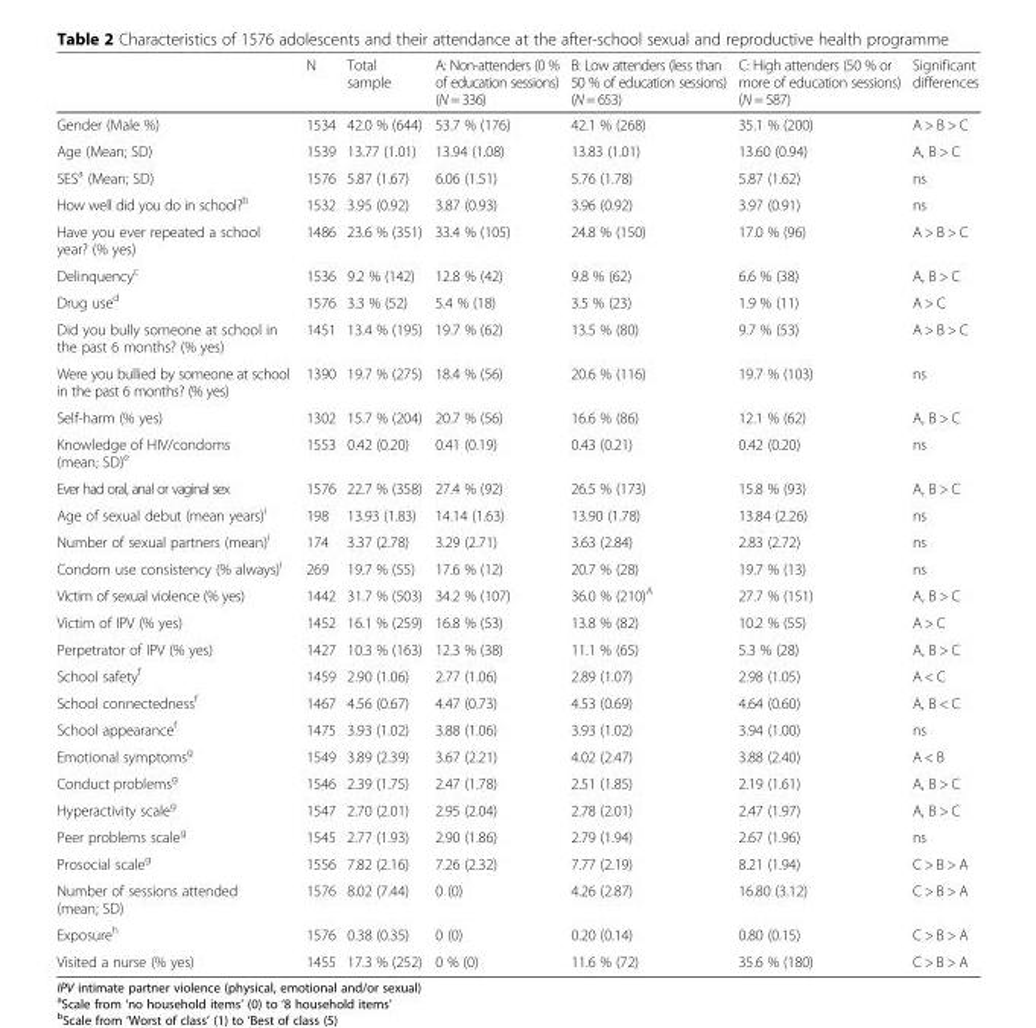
<table><thead><tr><td></td><td>N</td><td>Total sample</td><td>A: Non-attenders (0 % of education sessions) (N = 336)</td><td>B: Low attenders (less than 50 % of education sessions) (N = 653)</td><td>C: High attenders (50 % or more of education sessions) (N = 587)</td><td>Significant differences</td></tr></thead><tbody><tr><td>Gender (Male %)</td><td>1534</td><td>42.0 % (644)</td><td>53.7 % (176)</td><td>42.1 % (268)</td><td>35.1 % (200)</td><td>A &gt; B &gt; C</td></tr><tr><td>Age (Mean; SD)</td><td>1539</td><td>13.77 (1.01)</td><td>13.94 (1.08)</td><td>13.83 (1.01)</td><td>13.60 (0.94)</td><td>A, B &gt; C</td></tr><tr><td>SES<sup>a</sup> (Mean; SD)</td><td>1576</td><td>5.87 (1.67)</td><td>6.06 (1.51)</td><td>5.76 (1.78)</td><td>5.87 (1.62)</td><td>ns</td></tr><tr><td>How well did you do in school?<sup>b</sup></td><td>1532</td><td>3.95 (0.92)</td><td>3.87 (0.93)</td><td>3.96 (0.92)</td><td>3.97 (0.91)</td><td>ns</td></tr><tr><td>Have you ever repeated a school year? (% yes)</td><td>1486</td><td>23.6 % (351)</td><td>33.4 % (105)</td><td>24.8 % (150)</td><td>17.0 % (96)</td><td>A &gt; B &gt; C</td></tr><tr><td>Delinquency<sup>c</sup></td><td>1536</td><td>9.2 % (142)</td><td>12.8 % (42)</td><td>9.8 % (62)</td><td>6.6 % (38)</td><td>A, B &gt; C</td></tr><tr><td>Drug use<sup>d</sup></td><td>1576</td><td>3.3 % (52)</td><td>5.4 % (18)</td><td>3.5 % (23)</td><td>1.9 % (11)</td><td>A &gt; C</td></tr><tr><td>Did you bully someone at school in the past 6 months? (% yes)</td><td>1451</td><td>13.4 % (195)</td><td>19.7 % (62)</td><td>13.5 % (80)</td><td>9.7 % (53)</td><td>A &gt; B &gt; C</td></tr><tr><td>Were you bullied by someone at school in the past 6 months? (% yes)</td><td>1390</td><td>19.7 % (275)</td><td>18.4 % (56)</td><td>20.6 % (116)</td><td>19.7 % (103)</td><td>ns</td></tr><tr><td>Self-harm (% yes)</td><td>1302</td><td>15.7 % (204)</td><td>20.7 % (56)</td><td>16.6 % (86)</td><td>12.1 % (62)</td><td>A, B &gt; C</td></tr><tr><td>Knowledge of HIV/condoms (mean; SD)<sup>e</sup></td><td>1553</td><td>0.42 (0.20)</td><td>0.41 (0.19)</td><td>0.43 (0.21)</td><td>0.42 (0.20)</td><td>ns</td></tr><tr><td>Ever had oral, anal or vaginal sex</td><td>1576</td><td>22.7 % (358)</td><td>27.4 % (92)</td><td>26.5 % (173)</td><td>15.8 % (93)</td><td>A, B &gt; C</td></tr><tr><td>Age of sexual debut (mean years)<sup>i</sup></td><td>198</td><td>13.93 (1.83)</td><td>14.14 (1.63)</td><td>13.90 (1.78)</td><td>13.84 (2.26)</td><td>ns</td></tr><tr><td>Number of sexual partners (mean)<sup>i</sup></td><td>174</td><td>3.37 (2.78)</td><td>3.29 (2.71)</td><td>3.63 (2.84)</td><td>2.83 (2.72)</td><td>ns</td></tr><tr><td>Condom use consistency (% always)<sup>i</sup></td><td>269</td><td>19.7 % (55)</td><td>17.6 % (12)</td><td>20.7 % (28)</td><td>19.7 % (13)</td><td>ns</td></tr><tr><td>Victim of sexual violence (% yes)</td><td>1442</td><td>31.7 % (503)</td><td>34.2 % (107)</td><td>36.0 % (210)<sup>A</sup></td><td>27.7 % (151)</td><td>A, B &gt; C</td></tr><tr><td>Victim of IPV (% yes)</td><td>1452</td><td>16.1 % (259)</td><td>16.8 % (53)</td><td>13.8 % (82)</td><td>10.2 % (55)</td><td>A &gt; C</td></tr><tr><td>Perpetrator of IPV (% yes)</td><td>1427</td><td>10.3 % (163)</td><td>12.3 % (38)</td><td>11.1 % (65)</td><td>5.3 % (28)</td><td>A, B &gt; C</td></tr><tr><td>School safety<sup>f</sup></td><td>1459</td><td>2.90 (1.06)</td><td>2.77 (1.06)</td><td>2.89 (1.07)</td><td>2.98 (1.05)</td><td>A &lt; C</td></tr><tr><td>School connectedness<sup>f</sup></td><td>1467</td><td>4.56 (0.67)</td><td>4.47 (0.73)</td><td>4.53 (0.69)</td><td>4.64 (0.60)</td><td>A, B &lt; C</td></tr><tr><td>School appearance<sup>f</sup></td><td>1475</td><td>3.93 (1.02)</td><td>3.88 (1.06)</td><td>3.93 (1.02)</td><td>3.94 (1.00)</td><td>ns</td></tr><tr><td>Emotional symptoms<sup>g</sup></td><td>1549</td><td>3.89 (2.39)</td><td>3.67 (2.21)</td><td>4.02 (2.47)</td><td>3.88 (2.40)</td><td>A &lt; B</td></tr><tr><td>Conduct problems<sup>g</sup></td><td>1546</td><td>2.39 (1.75)</td><td>2.47 (1.78)</td><td>2.51 (1.85)</td><td>2.19 (1.61)</td><td>A, B &gt; C</td></tr><tr><td>Hyperactivity scale<sup>g</sup></td><td>1547</td><td>2.70 (2.01)</td><td>2.95 (2.04)</td><td>2.78 (2.01)</td><td>2.47 (1.97)</td><td>A, B &gt; C</td></tr><tr><td>Peer problems scale<sup>g</sup></td><td>1545</td><td>2.77 (1.93)</td><td>2.90 (1.86)</td><td>2.79 (1.94)</td><td>2.67 (1.96)</td><td>ns</td></tr><tr><td>Prosocial scale<sup>g</sup></td><td>1556</td><td>7.82 (2.16)</td><td>7.26 (2.32)</td><td>7.77 (2.19)</td><td>8.21 (1.94)</td><td>C &gt; B &gt; A</td></tr><tr><td>Number of sessions attended (mean; SD)</td><td>1576</td><td>8.02 (7.44)</td><td>0 (0)</td><td>4.26 (2.87)</td><td>16.80 (3.12)</td><td>C &gt; B &gt; A</td></tr><tr><td>Exposure<sup>h</sup></td><td>1576</td><td>0.38 (0.35)</td><td>0 (0)</td><td>0.20 (0.14)</td><td>0.80 (0.15)</td><td>C &gt; B &gt; A</td></tr><tr><td>Visited a nurse (% yes)</td><td>1455</td><td>17.3 % (252)</td><td>0 % (0)</td><td>11.6 % (72)</td><td>35.6 % (180)</td><td>C &gt; B &gt; A</td></tr></tbody></table>